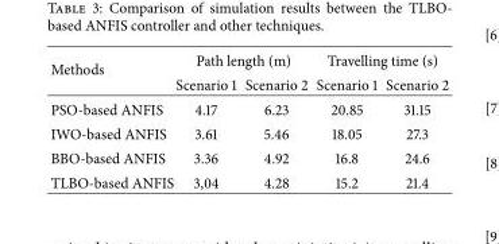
<table><thead><tr><td rowspan="2">Methods</td><td colspan="2">Path length (m)</td><td colspan="2">Travelling time (s)</td></tr><tr><td>Scenario 1</td><td>Scenario 2</td><td>Scenario 1</td><td>Scenario 2</td></tr></thead><tbody><tr><td>PSO-based ANFIS</td><td>4.17</td><td>6.23</td><td>20.85</td><td>31.15</td></tr><tr><td>IWO-based ANFIS</td><td>3.61</td><td>5.46</td><td>18.05</td><td>27.3</td></tr><tr><td>BBO-based ANFIS</td><td>3.36</td><td>4.92</td><td>16.8</td><td>24.6</td></tr><tr><td>TLBO-based ANFIS</td><td>3,04</td><td>4.28</td><td>15.2</td><td>21.4</td></tr></tbody></table>